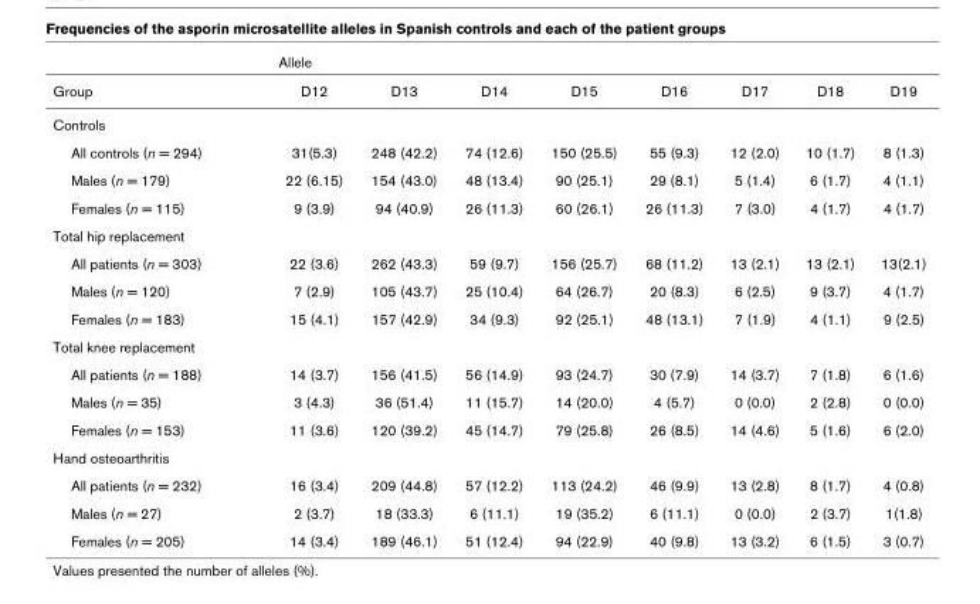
<table><thead><tr><td rowspan="2">Group</td><td colspan="8">Allele</td></tr><tr><td>D12</td><td>D13</td><td>D14</td><td>D15</td><td>D16</td><td>D17</td><td>D18</td><td>D19</td></tr></thead><tbody><tr><td colspan="9">Controls</td></tr><tr><td>All controls (n = 294)</td><td>31(5.3)</td><td>248 (42.2)</td><td>74 (12.6)</td><td>150 (25.5)</td><td>55 (9.3)</td><td>12 (2.0)</td><td>10 (1.7)</td><td>8 (1.3)</td></tr><tr><td>Males (n = 179)</td><td>22 (6.15)</td><td>154 (43.0)</td><td>48 (13.4)</td><td>90 (25.1)</td><td>29 (8.1)</td><td>5 (1.4)</td><td>6 (1.7)</td><td>4 (1.1)</td></tr><tr><td>Females (n = 115)</td><td>9 (3.9)</td><td>94 (40.9)</td><td>26 (11.3)</td><td>60 (26.1)</td><td>26 (11.3)</td><td>7 (3.0)</td><td>4 (1.7)</td><td>4 (1.7)</td></tr><tr><td colspan="9">Total hip replacement</td></tr><tr><td>All patients (n = 303)</td><td>22 (3.6)</td><td>262 (43.3)</td><td>59 (9.7)</td><td>156 (25.7)</td><td>68 (11.2)</td><td>13 (2.1)</td><td>13 (2.1)</td><td>13(2.1)</td></tr><tr><td>Males (n = 120)</td><td>7 (2.9)</td><td>105 (43.7)</td><td>25 (10.4)</td><td>64 (26.7)</td><td>20 (8.3)</td><td>6 (2.5)</td><td>9 (3.7)</td><td>4 (1.7)</td></tr><tr><td>Females (n = 183)</td><td>15 (4.1)</td><td>157 (42.9)</td><td>34 (9.3)</td><td>92 (25.1)</td><td>48 (13.1)</td><td>7 (1.9)</td><td>4 (1.1)</td><td>9 (2.5)</td></tr><tr><td colspan="9">Total knee replacement</td></tr><tr><td>All patients (n = 188)</td><td>14 (3.7)</td><td>156 (41.5)</td><td>56 (14.9)</td><td>93 (24.7)</td><td>30 (7.9)</td><td>14 (3.7)</td><td>7 (1.8)</td><td>6 (1.6)</td></tr><tr><td>Males (n = 35)</td><td>3 (4.3)</td><td>36 (51.4)</td><td>11 (15.7)</td><td>14 (20.0)</td><td>4 (5.7)</td><td>0 (0.0)</td><td>2 (2.8)</td><td>0 (0.0)</td></tr><tr><td>Females (n = 153)</td><td>11 (3.6)</td><td>120 (39.2)</td><td>45 (14.7)</td><td>79 (25.8)</td><td>26 (8.5)</td><td>14 (4.6)</td><td>5 (1.6)</td><td>6 (2.0)</td></tr><tr><td colspan="9">Hand osteoarthritis</td></tr><tr><td>All patients (n = 232)</td><td>16 (3.4)</td><td>209 (44.8)</td><td>57 (12.2)</td><td>113 (24.2)</td><td>46 (9.9)</td><td>13 (2.8)</td><td>8 (1.7)</td><td>4 (0.8)</td></tr><tr><td>Males (n = 27)</td><td>2 (3.7)</td><td>18 (33.3)</td><td>6 (11.1)</td><td>19 (35.2)</td><td>6 (11.1)</td><td>0 (0.0)</td><td>2 (3.7)</td><td>1(1.8)</td></tr><tr><td>Females (n = 205)</td><td>14 (3.4)</td><td>189 (46.1)</td><td>51 (12.4)</td><td>94 (22.9)</td><td>40 (9.8)</td><td>13 (3.2)</td><td>6 (1.5)</td><td>3 (0.7)</td></tr></tbody></table>